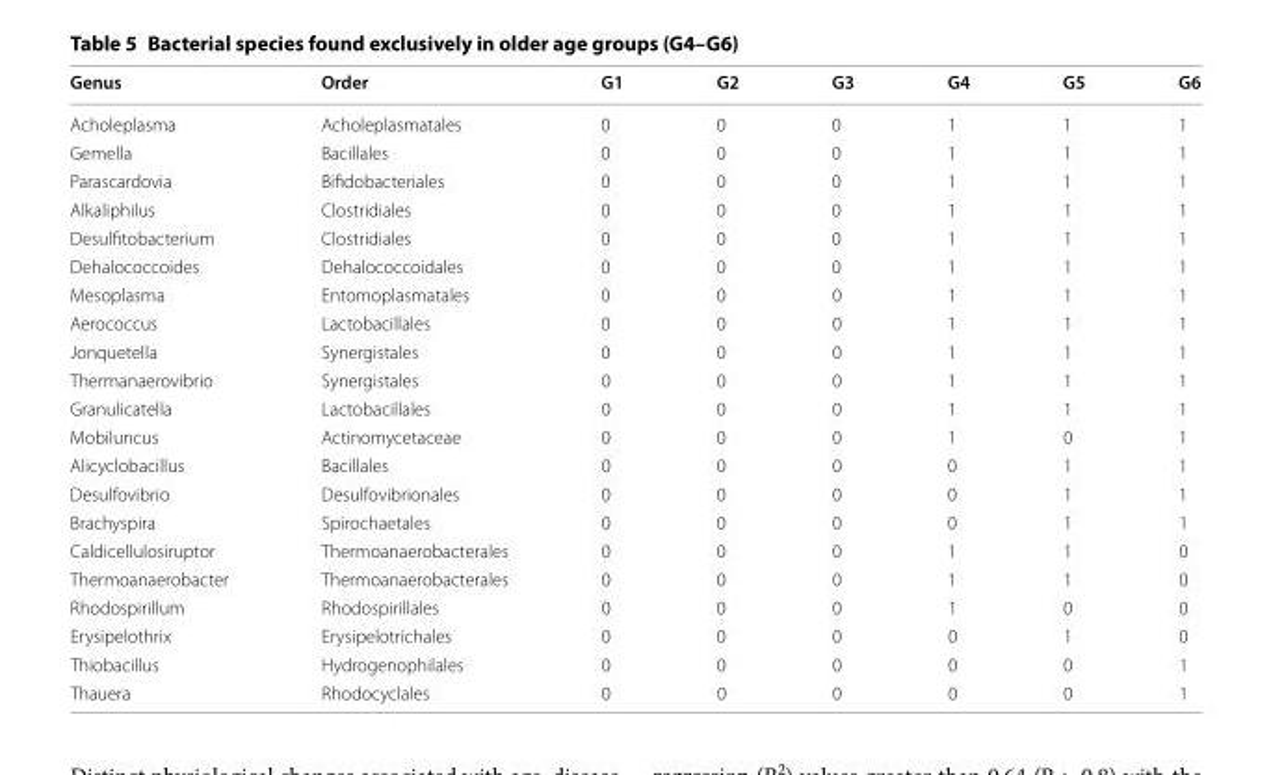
<table><thead><tr><td>Genus</td><td>Order</td><td>G1</td><td>G2</td><td>G3</td><td>G4</td><td>G5</td><td>G6</td></tr></thead><tbody><tr><td>Acholeplasma</td><td>Acholeplasmatales</td><td>0</td><td>0</td><td>0</td><td>1</td><td>1</td><td>1</td></tr><tr><td>Gemella</td><td>Bacillales</td><td>0</td><td>0</td><td>0</td><td>1</td><td>1</td><td>1</td></tr><tr><td>Parascardovia</td><td>Bifidobacteriales</td><td>0</td><td>0</td><td>0</td><td>1</td><td>1</td><td>1</td></tr><tr><td>Alkaliphilus</td><td>Clostridiales</td><td>0</td><td>0</td><td>0</td><td>1</td><td>1</td><td>1</td></tr><tr><td>Desulfitobacterium</td><td>Clostridiales</td><td>0</td><td>0</td><td>0</td><td>1</td><td>1</td><td>1</td></tr><tr><td>Dehalococcoides</td><td>Dehalococcoidales</td><td>0</td><td>0</td><td>0</td><td>1</td><td>1</td><td>1</td></tr><tr><td>Mesoplasma</td><td>Entomoplasmatales</td><td>0</td><td>0</td><td>0</td><td>1</td><td>1</td><td>1</td></tr><tr><td>Aerococcus</td><td>Lactobacillales</td><td>0</td><td>0</td><td>0</td><td>1</td><td>1</td><td>1</td></tr><tr><td>Jonquetella</td><td>Synergistales</td><td>0</td><td>0</td><td>0</td><td>1</td><td>1</td><td>1</td></tr><tr><td>Thermanaerovibrio</td><td>Synergistales</td><td>0</td><td>0</td><td>0</td><td>1</td><td>1</td><td>1</td></tr><tr><td>Granulicatella</td><td>Lactobacillales</td><td>0</td><td>0</td><td>0</td><td>1</td><td>1</td><td>1</td></tr><tr><td>Mobiluncus</td><td>Actinomycetaceae</td><td>0</td><td>0</td><td>0</td><td>1</td><td>0</td><td>1</td></tr><tr><td>Alicyclobacillus</td><td>Bacillales</td><td>0</td><td>0</td><td>0</td><td>0</td><td>1</td><td>1</td></tr><tr><td>Desulfovibrio</td><td>Desulfovibrionales</td><td>0</td><td>0</td><td>0</td><td>0</td><td>1</td><td>1</td></tr><tr><td>Brachyspira</td><td>Spirochaetales</td><td>0</td><td>0</td><td>0</td><td>0</td><td>1</td><td>1</td></tr><tr><td>Caldicellulosiruptor</td><td>Thermoanaerobacterales</td><td>0</td><td>0</td><td>0</td><td>1</td><td>1</td><td>0</td></tr><tr><td>Thermoanaerobacter</td><td>Thermoanaerobacterales</td><td>0</td><td>0</td><td>0</td><td>1</td><td>1</td><td>0</td></tr><tr><td>Rhodospirillum</td><td>Rhodospirillales</td><td>0</td><td>0</td><td>0</td><td>1</td><td>0</td><td>0</td></tr><tr><td>Erysipelothrix</td><td>Erysipelotrichales</td><td>0</td><td>0</td><td>0</td><td>0</td><td>1</td><td>0</td></tr><tr><td>Thiobacillus</td><td>Hydrogenophilales</td><td>0</td><td>0</td><td>0</td><td>0</td><td>0</td><td>1</td></tr><tr><td>Thauera</td><td>Rhodocyclales</td><td>0</td><td>0</td><td>0</td><td>0</td><td>0</td><td>1</td></tr></tbody></table>